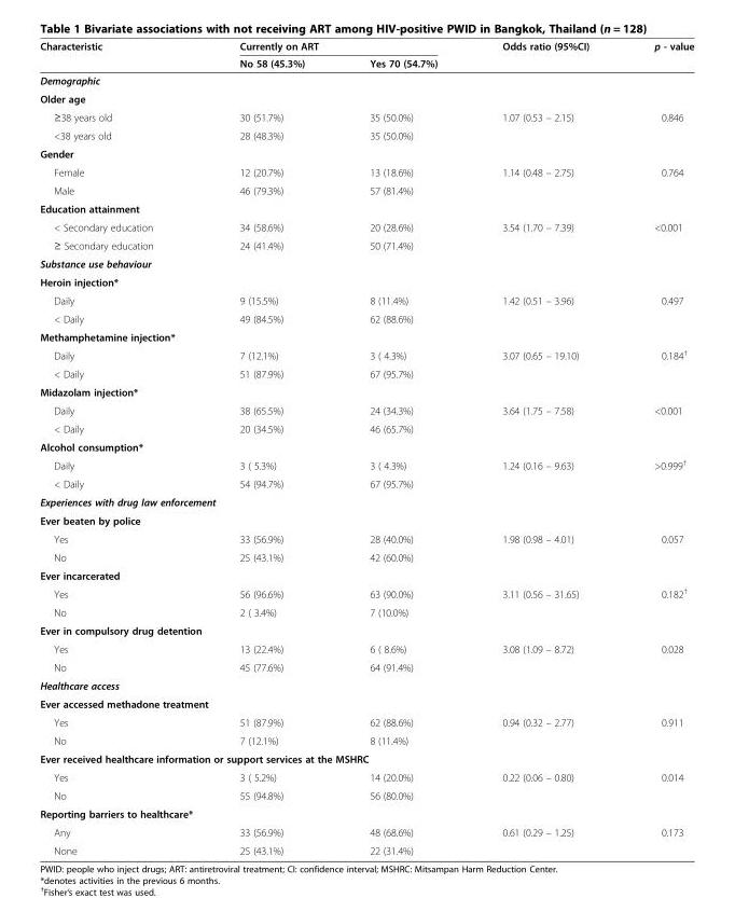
<table><thead><tr><td rowspan="2">Characteristic</td><td colspan="2">Currently on ART</td><td rowspan="2">Odds ratio (95%CI)</td><td rowspan="2">p - value</td></tr><tr><td>No 58 (45.3%)</td><td>Yes 70 (54.7%)</td></tr></thead><tbody><tr><td colspan="5">Demographic</td></tr><tr><td colspan="5">Older age</td></tr><tr><td>≥38 years old</td><td>30 (51.7%)</td><td>35 (50.0%)</td><td>1.07 (0.53 – 2.15)</td><td>0.846</td></tr><tr><td>&lt;38 years old</td><td>28 (48.3%)</td><td>35 (50.0%)</td><td></td><td></td></tr><tr><td colspan="5">Gender</td></tr><tr><td>Female</td><td>12 (20.7%)</td><td>13 (18.6%)</td><td>1.14 (0.48 – 2.75)</td><td>0.764</td></tr><tr><td>Male</td><td>46 (79.3%)</td><td>57 (81.4%)</td><td></td><td></td></tr><tr><td colspan="5">Education attainment</td></tr><tr><td>&lt; Secondary education</td><td>34 (58.6%)</td><td>20 (28.6%)</td><td>3.54 (1.70 – 7.39)</td><td>&lt;0.001</td></tr><tr><td>≥ Secondary education</td><td>24 (41.4%)</td><td>50 (71.4%)</td><td></td><td></td></tr><tr><td colspan="5">Substance use behaviour</td></tr><tr><td colspan="5">Heroin injection*</td></tr><tr><td>Daily</td><td>9 (15.5%)</td><td>8 (11.4%)</td><td>1.42 (0.51 – 3.96)</td><td>0.497</td></tr><tr><td>&lt; Daily</td><td>49 (84.5%)</td><td>62 (88.6%)</td><td></td><td></td></tr><tr><td colspan="5">Methamphetamine injection*</td></tr><tr><td>Daily</td><td>7 (12.1%)</td><td>3 ( 4.3%)</td><td>3.07 (0.65 – 19.10)</td><td>0.184<sup>†</sup></td></tr><tr><td>&lt; Daily</td><td>51 (87.9%)</td><td>67 (95.7%)</td><td></td><td></td></tr><tr><td colspan="5">Midazolam injection*</td></tr><tr><td>Daily</td><td>38 (65.5%)</td><td>24 (34.3%)</td><td>3.64 (1.75 – 7.58)</td><td>&lt;0.001</td></tr><tr><td>&lt; Daily</td><td>20 (34.5%)</td><td>46 (65.7%)</td><td></td><td></td></tr><tr><td colspan="5">Alcohol consumption*</td></tr><tr><td>Daily</td><td>3 ( 5.3%)</td><td>3 ( 4.3%)</td><td>1.24 (0.16 – 9.63)</td><td>&gt;0.999<sup>†</sup></td></tr><tr><td>&lt; Daily</td><td>54 (94.7%)</td><td>67 (95.7%)</td><td></td><td></td></tr><tr><td colspan="5">Experiences with drug law enforcement</td></tr><tr><td colspan="5">Ever beaten by police</td></tr><tr><td>Yes</td><td>33 (56.9%)</td><td>28 (40.0%)</td><td>1.98 (0.98 – 4.01)</td><td>0.057</td></tr><tr><td>No</td><td>25 (43.1%)</td><td>42 (60.0%)</td><td></td><td></td></tr><tr><td colspan="5">Ever incarcerated</td></tr><tr><td>Yes</td><td>56 (96.6%)</td><td>63 (90.0%)</td><td>3.11 (0.56 – 31.65)</td><td>0.182<sup>†</sup></td></tr><tr><td>No</td><td>2 ( 3.4%)</td><td>7 (10.0%)</td><td></td><td></td></tr><tr><td colspan="5">Ever in compulsory drug detention</td></tr><tr><td>Yes</td><td>13 (22.4%)</td><td>6 ( 8.6%)</td><td>3.08 (1.09 – 8.72)</td><td>0.028</td></tr><tr><td>No</td><td>45 (77.6%)</td><td>64 (91.4%)</td><td></td><td></td></tr><tr><td colspan="5">Healthcare access</td></tr><tr><td colspan="5">Ever accessed methadone treatment</td></tr><tr><td>Yes</td><td>51 (87.9%)</td><td>62 (88.6%)</td><td>0.94 (0.32 – 2.77)</td><td>0.911</td></tr><tr><td>No</td><td>7 (12.1%)</td><td>8 (11.4%)</td><td></td><td></td></tr><tr><td colspan="5">Ever received healthcare information or support services at the MSHRC</td></tr><tr><td>Yes</td><td>3 ( 5.2%)</td><td>14 (20.0%)</td><td>0.22 (0.06 – 0.80)</td><td>0.014</td></tr><tr><td>No</td><td>55 (94.8%)</td><td>56 (80.0%)</td><td></td><td></td></tr><tr><td colspan="5">Reporting barriers to healthcare*</td></tr><tr><td>Any</td><td>33 (56.9%)</td><td>48 (68.6%)</td><td>0.61 (0.29 – 1.25)</td><td>0.173</td></tr><tr><td>None</td><td>25 (43.1%)</td><td>22 (31.4%)</td><td></td><td></td></tr></tbody></table>